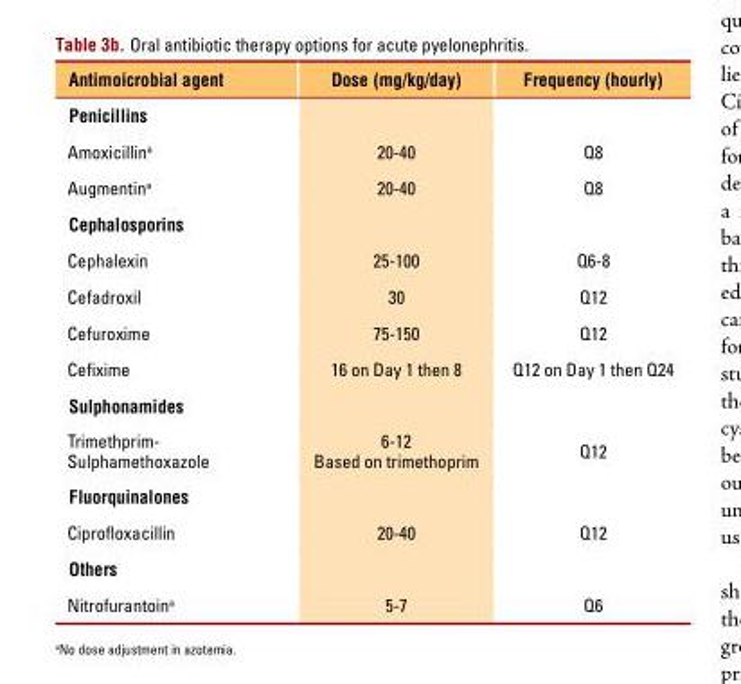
<table><thead><tr><td>Antimoicrobial agent</td><td>Dose (mg/kg/day)</td><td>Frequency (hourly)</td></tr></thead><tbody><tr><td colspan="3">Penicillins</td></tr><tr><td>Amoxicillin<sup>a</sup></td><td>20-40</td><td>Q8</td></tr><tr><td>Augmentin<sup>a</sup></td><td>20-40</td><td>Q8</td></tr><tr><td colspan="3">Cephalosporins</td></tr><tr><td>Cephalexin</td><td>25-100</td><td>Q6-8</td></tr><tr><td>Cefadroxil</td><td>30</td><td>Q12</td></tr><tr><td>Cefuroxime</td><td>75-150</td><td>Q12</td></tr><tr><td>Cefixime</td><td>16 on Day 1 then 8</td><td>Q12 on Day 1 then Q24</td></tr><tr><td colspan="3">Sulphonamides</td></tr><tr><td>Trimethprim- Sulphamethoxazole</td><td>6-12 Based on trimethoprim</td><td>Q12</td></tr><tr><td colspan="3">Fluorquinalones</td></tr><tr><td>Ciprofloxacillin</td><td>20-40</td><td>Q12</td></tr><tr><td colspan="3">Others</td></tr><tr><td>Nitrofurantoin<sup>a</sup></td><td>5-7</td><td>Q6</td></tr></tbody></table>